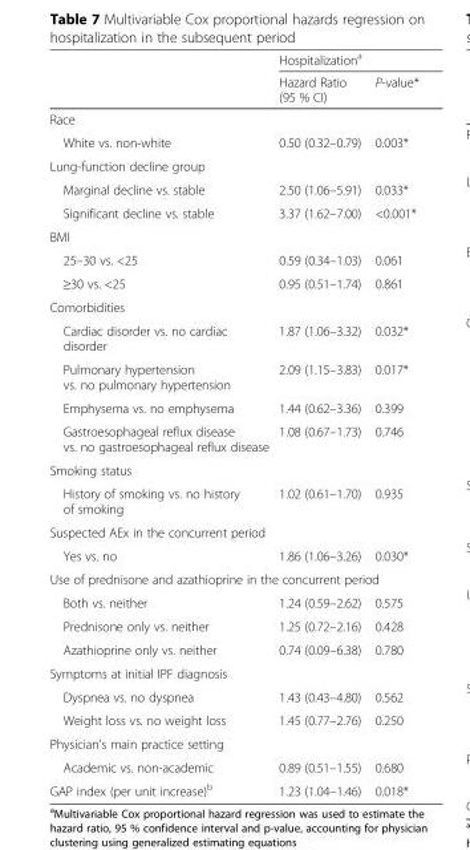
<table><thead><tr><td rowspan="2"></td><td colspan="2">Hospitalization<sup>a</sup></td></tr><tr><td>Hazard Ratio (95 % CI)</td><td>P-value*</td></tr></thead><tbody><tr><td colspan="3">Race</td></tr><tr><td>White vs. non-white</td><td>0.50 (0.32–0.79)</td><td>0.003*</td></tr><tr><td colspan="3">Lung-function decline group</td></tr><tr><td>Marginal decline vs. stable</td><td>2.50 (1.06–5.91)</td><td>0.033*</td></tr><tr><td>Significant decline vs. stable</td><td>3.37 (1.62–7.00)</td><td>&lt;0.001*</td></tr><tr><td colspan="3">BMI</td></tr><tr><td>25–30 vs. &lt;25</td><td>0.59 (0.34–1.03)</td><td>0.061</td></tr><tr><td>≥30 vs. &lt;25</td><td>0.95 (0.51–1.74)</td><td>0.861</td></tr><tr><td colspan="3">Comorbidities</td></tr><tr><td>Cardiac disorder vs. no cardiac disorder</td><td>1.87 (1.06–3.32)</td><td>0.032*</td></tr><tr><td>Pulmonary hypertension vs. no pulmonary hypertension</td><td>2.09 (1.15–3.83)</td><td>0.017*</td></tr><tr><td>Emphysema vs. no emphysema</td><td>1.44 (0.62–3.36)</td><td>0.399</td></tr><tr><td>Gastroesophageal reflux disease vs. no gastroesophageal reflux disease</td><td>1.08 (0.67–1.73)</td><td>0.746</td></tr><tr><td colspan="3">Smoking status</td></tr><tr><td>History of smoking vs. no history of smoking</td><td>1.02 (0.61–1.70)</td><td>0.935</td></tr><tr><td colspan="3">Suspected AEx in the concurrent period</td></tr><tr><td>Yes vs. no</td><td>1.86 (1.06–3.26)</td><td>0.030*</td></tr><tr><td colspan="3">Use of prednisone and azathioprine in the concurrent period</td></tr><tr><td>Both vs. neither</td><td>1.24 (0.59–2.62)</td><td>0.575</td></tr><tr><td>Prednisone only vs. neither</td><td>1.25 (0.72–2.16)</td><td>0.428</td></tr><tr><td>Azathioprine only vs. neither</td><td>0.74 (0.09–6.38)</td><td>0.780</td></tr><tr><td colspan="3">Symptoms at initial IPF diagnosis</td></tr><tr><td>Dyspnea vs. no dyspnea</td><td>1.43 (0.43–4.80)</td><td>0.562</td></tr><tr><td>Weight loss vs. no weight loss</td><td>1.45 (0.77–2.76)</td><td>0.250</td></tr><tr><td colspan="3">Physician&#x27;s main practice setting</td></tr><tr><td>Academic vs. non-academic</td><td>0.89 (0.51–1.55)</td><td>0.680</td></tr><tr><td>GAP index (per unit increase)<sup>b</sup></td><td>1.23 (1.04–1.46)</td><td>0.018*</td></tr></tbody></table>